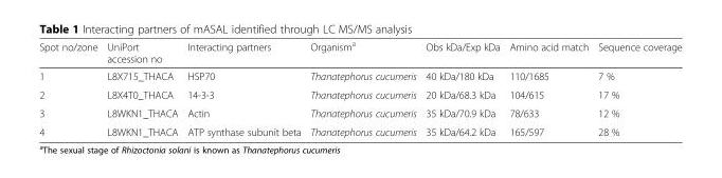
<table><thead><tr><td>Spot no/zone</td><td>UniPort accession no</td><td>Interacting partners</td><td>Organism<sup>a</sup></td><td>Obs kDa/Exp kDa</td><td>Amino acid match</td><td>Sequence coverage</td></tr></thead><tbody><tr><td>1</td><td>L8X715_THACA</td><td>HSP70</td><td>Thanatephorus cucumeris</td><td>40 kDa/180 kDa</td><td>110/1685</td><td>7 %</td></tr><tr><td>2</td><td>L8X4T0_THACA</td><td>14-3-3</td><td>Thanatephorus cucumeris</td><td>20 kDa/68.3 kDa</td><td>104/615</td><td>17 %</td></tr><tr><td>3</td><td>L8WKN1_THACA</td><td>Actin</td><td>Thanatephorus cucumeris</td><td>35 kDa/70.9 kDa</td><td>78/633</td><td>12 %</td></tr><tr><td>4</td><td>L8WKN1_THACA</td><td>ATP synthase subunit beta</td><td>Thanatephorus cucumeris</td><td>35 kDa/64.2 kDa</td><td>165/597</td><td>28 %</td></tr></tbody></table>